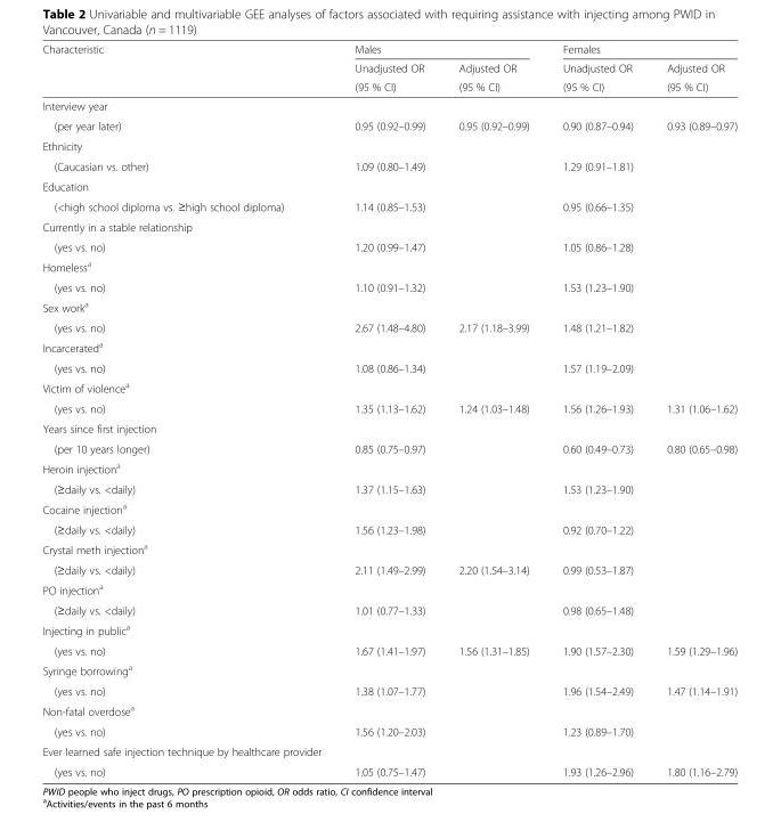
<table><thead><tr><td rowspan="3">Characteristic</td><td colspan="2">Males</td><td colspan="2">Females</td></tr><tr><td rowspan="2">Unadjusted OR (95 % CI)</td><td rowspan="2">Adjusted OR (95 % CI)</td><td rowspan="2">Unadjusted OR (95 % CI)</td><td rowspan="2">Adjusted OR (95 % CI)</td></tr><tr></tr></thead><tbody><tr><td colspan="5">Interview year</td></tr><tr><td>(per year later)</td><td>0.95 (0.92–0.99)</td><td>0.95 (0.92–0.99)</td><td>0.90 (0.87–0.94)</td><td>0.93 (0.89–0.97)</td></tr><tr><td colspan="5">Ethnicity</td></tr><tr><td>(Caucasian vs. other)</td><td>1.09 (0.80–1.49)</td><td></td><td>1.29 (0.91–1.81)</td><td></td></tr><tr><td colspan="5">Education</td></tr><tr><td>(&lt;high school diploma vs. ≥high school diploma)</td><td>1.14 (0.85–1.53)</td><td></td><td>0.95 (0.66–1.35)</td><td></td></tr><tr><td colspan="5">Currently in a stable relationship</td></tr><tr><td>(yes vs. no)</td><td>1.20 (0.99–1.47)</td><td></td><td>1.05 (0.86–1.28)</td><td></td></tr><tr><td colspan="5">Homeless<sup>a</sup></td></tr><tr><td>(yes vs. no)</td><td>1.10 (0.91–1.32)</td><td></td><td>1.53 (1.23–1.90)</td><td></td></tr><tr><td colspan="5">Sex work<sup>a</sup></td></tr><tr><td>(yes vs. no)</td><td>2.67 (1.48–4.80)</td><td>2.17 (1.18–3.99)</td><td>1.48 (1.21–1.82)</td><td></td></tr><tr><td colspan="5">Incarcerated<sup>a</sup></td></tr><tr><td>(yes vs. no)</td><td>1.08 (0.86–1.34)</td><td></td><td>1.57 (1.19–2.09)</td><td></td></tr><tr><td colspan="5">Victim of violence<sup>a</sup></td></tr><tr><td>(yes vs. no)</td><td>1.35 (1.13–1.62)</td><td>1.24 (1.03–1.48)</td><td>1.56 (1.26–1.93)</td><td>1.31 (1.06–1.62)</td></tr><tr><td colspan="5">Years since first injection</td></tr><tr><td>(per 10 years longer)</td><td>0.85 (0.75–0.97)</td><td></td><td>0.60 (0.49–0.73)</td><td>0.80 (0.65–0.98)</td></tr><tr><td colspan="5">Heroin injection<sup>a</sup></td></tr><tr><td>(≥daily vs. &lt;daily)</td><td>1.37 (1.15–1.63)</td><td></td><td>1.53 (1.23–1.90)</td><td></td></tr><tr><td colspan="5">Cocaine injection<sup>a</sup></td></tr><tr><td>(≥daily vs. &lt;daily)</td><td>1.56 (1.23–1.98)</td><td></td><td>0.92 (0.70–1.22)</td><td></td></tr><tr><td colspan="5">Crystal meth injection<sup>a</sup></td></tr><tr><td>(≥daily vs. &lt;daily)</td><td>2.11 (1.49–2.99)</td><td>2.20 (1.54–3.14)</td><td>0.99 (0.53–1.87)</td><td></td></tr><tr><td colspan="5">PO injection<sup>a</sup></td></tr><tr><td>(≥daily vs. &lt;daily)</td><td>1.01 (0.77–1.33)</td><td></td><td>0.98 (0.65–1.48)</td><td></td></tr><tr><td colspan="5">Injecting in public<sup>a</sup></td></tr><tr><td>(yes vs. no)</td><td>1.67 (1.41–1.97)</td><td>1.56 (1.31–1.85)</td><td>1.90 (1.57–2.30)</td><td>1.59 (1.29–1.96)</td></tr><tr><td colspan="5">Syringe borrowing<sup>a</sup></td></tr><tr><td>(yes vs. no)</td><td>1.38 (1.07–1.77)</td><td></td><td>1.96 (1.54–2.49)</td><td>1.47 (1.14–1.91)</td></tr><tr><td colspan="5">Non-fatal overdose<sup>a</sup></td></tr><tr><td>(yes vs. no)</td><td>1.56 (1.20–2.03)</td><td></td><td>1.23 (0.89–1.70)</td><td></td></tr><tr><td colspan="5">Ever learned safe injection technique by healthcare provider</td></tr><tr><td>(yes vs. no)</td><td>1.05 (0.75–1.47)</td><td></td><td>1.93 (1.26–2.96)</td><td>1.80 (1.16–2.79)</td></tr></tbody></table>